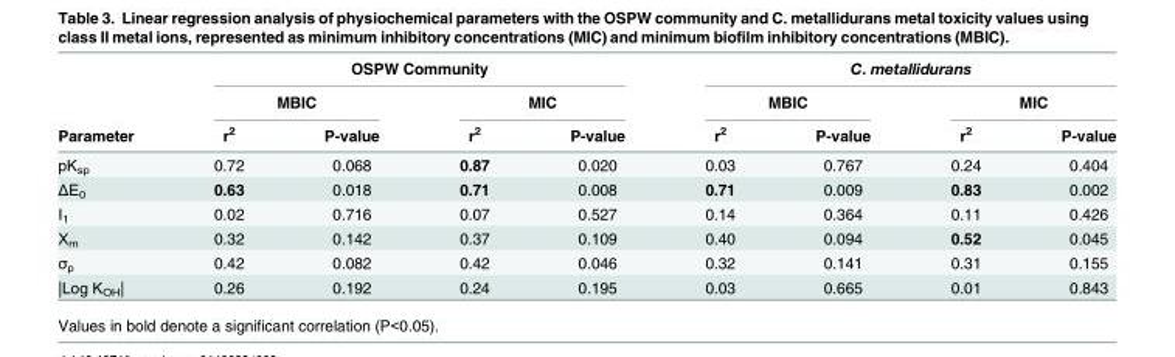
<table><thead><tr><td rowspan="3">Parameter</td><td colspan="4">OSPW Community</td><td colspan="4">C. metallidurans</td></tr><tr><td colspan="2">MBIC</td><td colspan="2">MIC</td><td colspan="2">MBIC</td><td colspan="2">MIC</td></tr><tr><td>r<sup>2</sup></td><td>P-value</td><td>r<sup>2</sup></td><td>P-value</td><td>r<sup>2</sup></td><td>P-value</td><td>r<sup>2</sup></td><td>P-value</td></tr></thead><tbody><tr><td>pK<sub>sp</sub></td><td>0.72</td><td>0.068</td><td>0.87</td><td>0.020</td><td>0.03</td><td>0.767</td><td>0.24</td><td>0.404</td></tr><tr><td>ΔE<sub>0</sub></td><td>0.63</td><td>0.018</td><td>0.71</td><td>0.008</td><td>0.71</td><td>0.009</td><td>0.83</td><td>0.002</td></tr><tr><td>I<sub>1</sub></td><td>0.02</td><td>0.716</td><td>0.07</td><td>0.527</td><td>0.14</td><td>0.364</td><td>0.11</td><td>0.426</td></tr><tr><td>Χ<sub>m</sub></td><td>0.32</td><td>0.142</td><td>0.37</td><td>0.109</td><td>0.40</td><td>0.094</td><td>0.52</td><td>0.045</td></tr><tr><td>σ<sub>p</sub></td><td>0.42</td><td>0.082</td><td>0.42</td><td>0.046</td><td>0.32</td><td>0.141</td><td>0.31</td><td>0.155</td></tr><tr><td>|Log K<sub>OH</sub>|</td><td>0.26</td><td>0.192</td><td>0.24</td><td>0.195</td><td>0.03</td><td>0.665</td><td>0.01</td><td>0.843</td></tr></tbody></table>